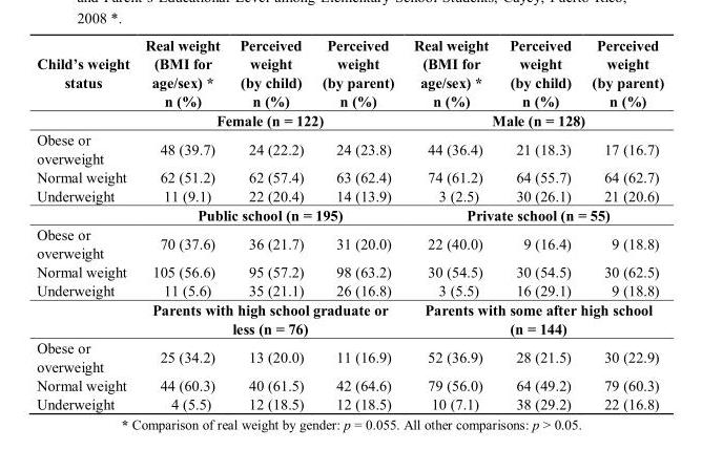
<table><thead><tr><td rowspan="2">Child’s weight status</td><td rowspan="2">Real weight (BMI for age/sex) * n (%)</td><td rowspan="2">Perceived weight (by child) n (%)</td><td rowspan="2">Perceived weight (by parent) n (%)</td><td rowspan="2">Real weight (BMI for age/sex) * n (%)</td><td rowspan="2">Perceived weight (by child) n (%)</td><td rowspan="2">Perceived weight (by parent) n (%)</td></tr><tr></tr></thead><tbody><tr><td></td><td colspan="3">Female (n = 122)</td><td colspan="3">Male (n = 128)</td></tr><tr><td>Obese or overweight</td><td>48 (39.7)</td><td>24 (22.2)</td><td>24 (23.8)</td><td>44 (36.4)</td><td>21 (18.3)</td><td>17 (16.7)</td></tr><tr><td>Normal weight</td><td>62 (51.2)</td><td>62 (57.4)</td><td>63 (62.4)</td><td>74 (61.2)</td><td>64 (55.7)</td><td>64 (62.7)</td></tr><tr><td rowspan="2">Underweight</td><td>11 (9.1)</td><td>22 (20.4)</td><td>14 (13.9)</td><td>3 (2.5)</td><td>30 (26.1)</td><td>21 (20.6)</td></tr><tr><td colspan="3">Public school (n = 195)</td><td colspan="3">Private school (n = 55)</td></tr><tr><td>Obese or overweight</td><td>70 (37.6)</td><td>36 (21.7)</td><td>31 (20.0)</td><td>22 (40.0)</td><td>9 (16.4)</td><td>9 (18.8)</td></tr><tr><td>Normal weight</td><td>105 (56.6)</td><td>95 (57.2)</td><td>98 (63.2)</td><td>30 (54.5)</td><td>30 (54.5)</td><td>30 (62.5)</td></tr><tr><td rowspan="2">Underweight</td><td>11 (5.6)</td><td>35 (21.1)</td><td>26 (16.8)</td><td>3 (5.5)</td><td>16 (29.1)</td><td>9 (18.8)</td></tr><tr><td colspan="3">Parents with high school graduate or less (n = 76)</td><td colspan="3">Parents with some after high school (n = 144)</td></tr><tr><td>Obese or overweight</td><td>25 (34.2)</td><td>13 (20.0)</td><td>11 (16.9)</td><td>52 (36.9)</td><td>28 (21.5)</td><td>30 (22.9)</td></tr><tr><td>Normal weight</td><td>44 (60.3)</td><td>40 (61.5)</td><td>42 (64.6)</td><td>79 (56.0)</td><td>64 (49.2)</td><td>79 (60.3)</td></tr><tr><td>Underweight</td><td>4 (5.5)</td><td>12 (18.5)</td><td>12 (18.5)</td><td>10 (7.1)</td><td>38 (29.2)</td><td>22 (16.8)</td></tr></tbody></table>